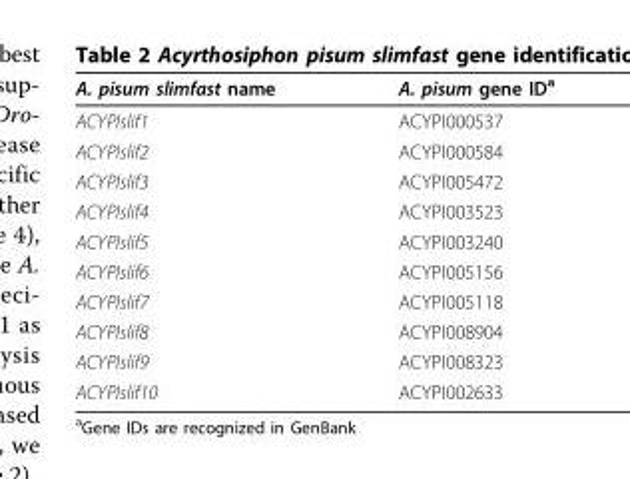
<table><thead><tr><td>A. pisum slimfast name</td><td>A. pisum gene ID<sup>a</sup></td></tr></thead><tbody><tr><td>ACYPIslif1</td><td>ACYPI000537</td></tr><tr><td>ACYPIslif2</td><td>ACYPI000584</td></tr><tr><td>ACYPIslif3</td><td>ACYPI005472</td></tr><tr><td>ACYPIslif4</td><td>ACYPI003523</td></tr><tr><td>ACYPIslif5</td><td>ACYPI003240</td></tr><tr><td>ACYPIslif6</td><td>ACYPI005156</td></tr><tr><td>ACYPIslif7</td><td>ACYPI005118</td></tr><tr><td>ACYPIslif8</td><td>ACYPI008904</td></tr><tr><td>ACYPIslif9</td><td>ACYPI008323</td></tr><tr><td>ACYPIslif10</td><td>ACYPI002633</td></tr></tbody></table>